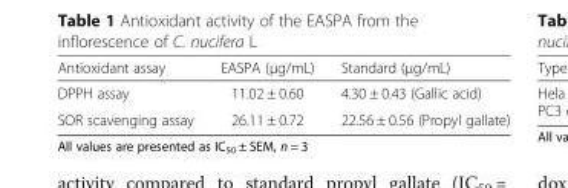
<table><thead><tr><td>Antioxidant assay</td><td>EASPA (μg/mL)</td><td>Standard (μg/mL)</td></tr></thead><tbody><tr><td>DPPH assay</td><td>11.02 ± 0.60</td><td>4.30 ± 0.43 (Gallic acid)</td></tr><tr><td>SOR scavenging assay</td><td>26.11 ± 0.72</td><td>22.56 ± 0.56 (Propyl gallate)</td></tr></tbody></table>